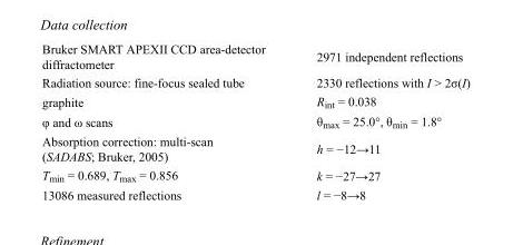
<table><tbody><tr><td>Bruker SMART APEXII CCD area-detector diffractometer</td><td>2971 independent reflections</td></tr><tr><td>Radiation source: fine-focus sealed tube</td><td>2330 reflections with I &gt; 2σ(I)</td></tr><tr><td>graphite</td><td>R<sub>int</sub> = 0.038</td></tr><tr><td>φ and ω scans</td><td>θ<sub>max</sub> = 25.0°, θ<sub>min</sub> = 1.8°</td></tr><tr><td>Absorption correction: multi-scan (SADABS; Bruker, 2005)</td><td>h = −12→11</td></tr><tr><td>T<sub>min</sub> = 0.689, T<sub>max</sub> = 0.856</td><td>k = −27→27</td></tr><tr><td>13086 measured reflections</td><td>l = −8→8</td></tr></tbody></table>